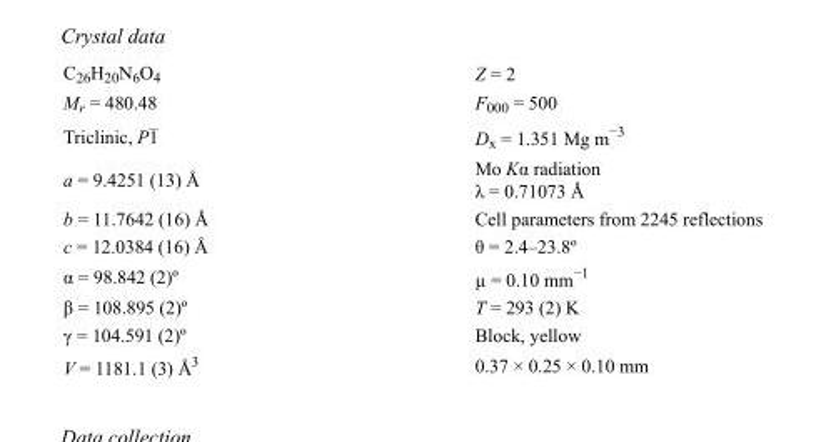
<table><tbody><tr><td>C<sub>26</sub>H<sub>20</sub>N<sub>6</sub>O<sub>4</sub></td><td>Z = 2</td></tr><tr><td>M<sub>r</sub> = 480.48</td><td>F000 = 500</td></tr><tr><td>Triclinic, P1</td><td>D<sub>x</sub> = 1.351 Mg m<sup>−3</sup></td></tr><tr><td>a = 9.4251 (13) Å</td><td>Mo Kα radiation λ = 0.71073 Å</td></tr><tr><td>b = 11.7642 (16) Å</td><td>Cell parameters from 2245 reflections</td></tr><tr><td>c = 12.0384 (16) Å</td><td>θ = 2.4–23.8º</td></tr><tr><td>α = 98.842 (2)º</td><td>µ = 0.10 mm<sup>−1</sup></td></tr><tr><td>β = 108.895 (2)º</td><td>T = 293 (2) K</td></tr><tr><td>γ = 104.591 (2)º</td><td>Block, yellow</td></tr><tr><td>V = 1181.1 (3) Å<sup>3</sup></td><td>0.37 × 0.25 × 0.10 mm</td></tr></tbody></table>